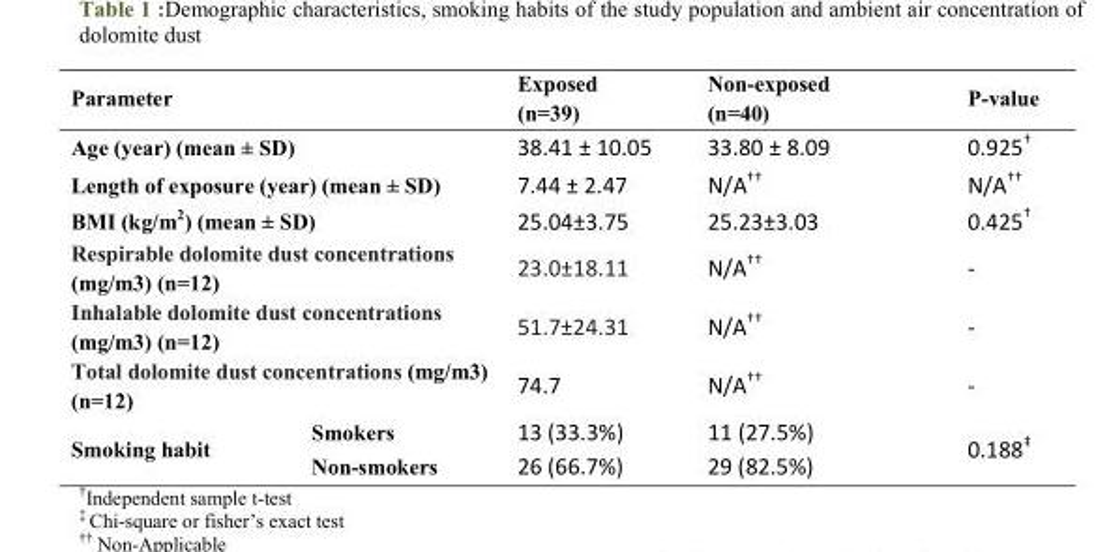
<table><thead><tr><td colspan="2">Parameter</td><td>Exposed (n=39)</td><td>Non-exposed (n=40)</td><td>P-value</td></tr></thead><tbody><tr><td colspan="2">Age (year) (mean ± SD)</td><td>38.41 ± 10.05</td><td>33.80 ± 8.09</td><td>0.925</td></tr><tr><td colspan="2">Length of exposure (year) (mean ± SD)</td><td>7.44 ± 2.47</td><td>N/A</td><td>N/A</td></tr><tr><td colspan="2">BMI (kg/m<sup>2</sup>) (mean ± SD)</td><td>25.04±3.75</td><td>25.23±3.03</td><td>0.425</td></tr><tr><td colspan="2">Respirable dolomite dust concentrations (mg/m3) (n=12)</td><td>23.0±18.11</td><td>N/A</td><td>-</td></tr><tr><td colspan="2">Inhalable dolomite dust concentrations (mg/m3) (n=12)</td><td>51.7±24.31</td><td>N/A</td><td>-</td></tr><tr><td colspan="2">Total dolomite dust concentrations (mg/m3) (n=12)</td><td>74.7</td><td>N/A</td><td>-</td></tr><tr><td rowspan="2">Smoking habit</td><td>Smokers</td><td>13 (33.3%)</td><td>11 (27.5%)</td><td rowspan="2">0.188</td></tr><tr><td>Non-smokers</td><td>26 (66.7%)</td><td>29 (82.5%)</td></tr></tbody></table>